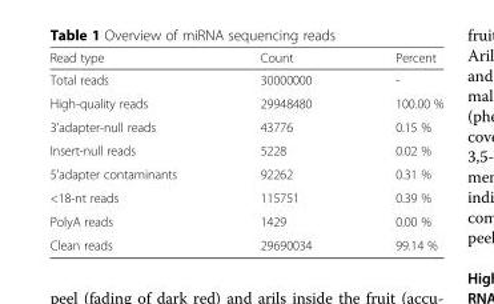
<table><thead><tr><td>Read type</td><td>Count</td><td>Percent</td></tr></thead><tbody><tr><td>Total reads</td><td>30000000</td><td>-</td></tr><tr><td>High-quality reads</td><td>29948480</td><td>100.00 %</td></tr><tr><td>3’adapter-null reads</td><td>43776</td><td>0.15 %</td></tr><tr><td>Insert-null reads</td><td>5228</td><td>0.02 %</td></tr><tr><td>5’adapter contaminants</td><td>92262</td><td>0.31 %</td></tr><tr><td>&lt;18-nt reads</td><td>115751</td><td>0.39 %</td></tr><tr><td>PolyA reads</td><td>1429</td><td>0.00 %</td></tr><tr><td>Clean reads</td><td>29690034</td><td>99.14 %</td></tr></tbody></table>